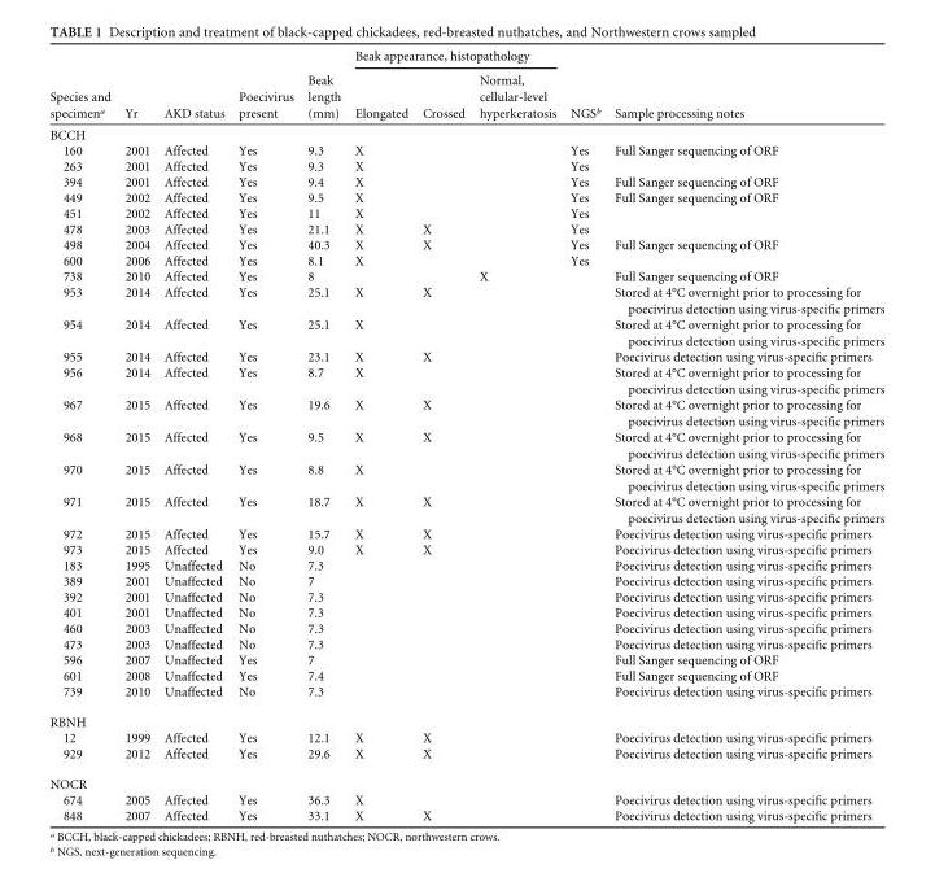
<table><thead><tr><td rowspan="2">Species and specimen<sup>a</sup></td><td rowspan="2">Yr</td><td rowspan="2">AKD status</td><td rowspan="2">Poecivirus present</td><td rowspan="2">Beak length (mm)</td><td colspan="3">Beak appearance, histopathology</td><td rowspan="2">NGS<sup>b</sup></td><td rowspan="2">Sample processing notes</td></tr><tr><td>Elongated</td><td>Crossed</td><td>Normal, cellular-level hyperkeratosis</td></tr></thead><tbody><tr><td colspan="10">BCCH</td></tr><tr><td>160</td><td>2001</td><td>Affected</td><td>Yes</td><td>9.3</td><td>X</td><td></td><td></td><td>Yes</td><td>Full Sanger sequencing of ORF</td></tr><tr><td>263</td><td>2001</td><td>Affected</td><td>Yes</td><td>9.3</td><td>X</td><td></td><td></td><td>Yes</td><td></td></tr><tr><td>394</td><td>2001</td><td>Affected</td><td>Yes</td><td>9.4</td><td>X</td><td></td><td></td><td>Yes</td><td>Full Sanger sequencing of ORF</td></tr><tr><td>449</td><td>2002</td><td>Affected</td><td>Yes</td><td>9.5</td><td>X</td><td></td><td></td><td>Yes</td><td>Full Sanger sequencing of ORF</td></tr><tr><td>451</td><td>2002</td><td>Affected</td><td>Yes</td><td>11</td><td>X</td><td></td><td></td><td>Yes</td><td></td></tr><tr><td>478</td><td>2003</td><td>Affected</td><td>Yes</td><td>21.1</td><td>X</td><td>X</td><td></td><td>Yes</td><td></td></tr><tr><td>498</td><td>2004</td><td>Affected</td><td>Yes</td><td>40.3</td><td>X</td><td>X</td><td></td><td>Yes</td><td>Full Sanger sequencing of ORF</td></tr><tr><td>600</td><td>2006</td><td>Affected</td><td>Yes</td><td>8.1</td><td>X</td><td></td><td></td><td>Yes</td><td></td></tr><tr><td>738</td><td>2010</td><td>Affected</td><td>Yes</td><td>8</td><td></td><td></td><td>X</td><td></td><td>Full Sanger sequencing of ORF</td></tr><tr><td>953</td><td>2014</td><td>Affected</td><td>Yes</td><td>25.1</td><td>X</td><td>X</td><td></td><td></td><td>Stored at 4°C overnight prior to processing for poecivirus detection using virus-specific primers</td></tr><tr><td>954</td><td>2014</td><td>Affected</td><td>Yes</td><td>25.1</td><td>X</td><td></td><td></td><td></td><td>Stored at 4°C overnight prior to processing for poecivirus detection using virus-specific primers</td></tr><tr><td>955</td><td>2014</td><td>Affected</td><td>Yes</td><td>23.1</td><td>X</td><td>X</td><td></td><td></td><td>Poecivirus detection using virus-specific primers</td></tr><tr><td>956</td><td>2014</td><td>Affected</td><td>Yes</td><td>8.7</td><td>X</td><td></td><td></td><td></td><td>Stored at 4°C overnight prior to processing for poecivirus detection using virus-specific primers</td></tr><tr><td>967</td><td>2015</td><td>Affected</td><td>Yes</td><td>19.6</td><td>X</td><td>X</td><td></td><td></td><td>Stored at 4°C overnight prior to processing for poecivirus detection using virus-specific primers</td></tr><tr><td>968</td><td>2015</td><td>Affected</td><td>Yes</td><td>9.5</td><td>X</td><td>X</td><td></td><td></td><td>Stored at 4°C overnight prior to processing for poecivirus detection using virus-specific primers</td></tr><tr><td>970</td><td>2015</td><td>Affected</td><td>Yes</td><td>8.8</td><td>X</td><td></td><td></td><td></td><td>Stored at 4°C overnight prior to processing for poecivirus detection using virus-specific primers</td></tr><tr><td>971</td><td>2015</td><td>Affected</td><td>Yes</td><td>18.7</td><td>X</td><td>X</td><td></td><td></td><td>Stored at 4°C overnight prior to processing for poecivirus detection using virus-specific primers</td></tr><tr><td>972</td><td>2015</td><td>Affected</td><td>Yes</td><td>15.7</td><td>X</td><td>X</td><td></td><td></td><td>Poecivirus detection using virus-specific primers</td></tr><tr><td>973</td><td>2015</td><td>Affected</td><td>Yes</td><td>9.0</td><td>X</td><td>X</td><td></td><td></td><td>Poecivirus detection using virus-specific primers</td></tr><tr><td>183</td><td>1995</td><td>Unaffected</td><td>No</td><td>7.3</td><td></td><td></td><td></td><td></td><td>Poecivirus detection using virus-specific primers</td></tr><tr><td>389</td><td>2001</td><td>Unaffected</td><td>No</td><td>7</td><td></td><td></td><td></td><td></td><td>Poecivirus detection using virus-specific primers</td></tr><tr><td>392</td><td>2001</td><td>Unaffected</td><td>No</td><td>7.3</td><td></td><td></td><td></td><td></td><td>Poecivirus detection using virus-specific primers</td></tr><tr><td>401</td><td>2001</td><td>Unaffected</td><td>No</td><td>7.3</td><td></td><td></td><td></td><td></td><td>Poecivirus detection using virus-specific primers</td></tr><tr><td>460</td><td>2003</td><td>Unaffected</td><td>No</td><td>7.3</td><td></td><td></td><td></td><td></td><td>Poecivirus detection using virus-specific primers</td></tr><tr><td>473</td><td>2003</td><td>Unaffected</td><td>No</td><td>7.3</td><td></td><td></td><td></td><td></td><td>Poecivirus detection using virus-specific primers</td></tr><tr><td>596</td><td>2007</td><td>Unaffected</td><td>Yes</td><td>7</td><td></td><td></td><td></td><td></td><td>Full Sanger sequencing of ORF</td></tr><tr><td>601</td><td>2008</td><td>Unaffected</td><td>Yes</td><td>7.4</td><td></td><td></td><td></td><td></td><td>Full Sanger sequencing of ORF</td></tr><tr><td>739</td><td>2010</td><td>Unaffected</td><td>No</td><td>7.3</td><td></td><td></td><td></td><td></td><td>Poecivirus detection using virus-specific primers</td></tr><tr><td colspan="10">RBNH</td></tr><tr><td>12</td><td>1999</td><td>Affected</td><td>Yes</td><td>12.1</td><td>X</td><td>X</td><td></td><td></td><td>Poecivirus detection using virus-specific primers</td></tr><tr><td>929</td><td>2012</td><td>Affected</td><td>Yes</td><td>29.6</td><td>X</td><td>X</td><td></td><td></td><td>Poecivirus detection using virus-specific primers</td></tr><tr><td colspan="10">NOCR</td></tr><tr><td>674</td><td>2005</td><td>Affected</td><td>Yes</td><td>36.3</td><td>X</td><td></td><td></td><td></td><td>Poecivirus detection using virus-specific primers</td></tr><tr><td>848</td><td>2007</td><td>Affected</td><td>Yes</td><td>33.1</td><td>X</td><td>X</td><td></td><td></td><td>Poecivirus detection using virus-specific primers</td></tr></tbody></table>